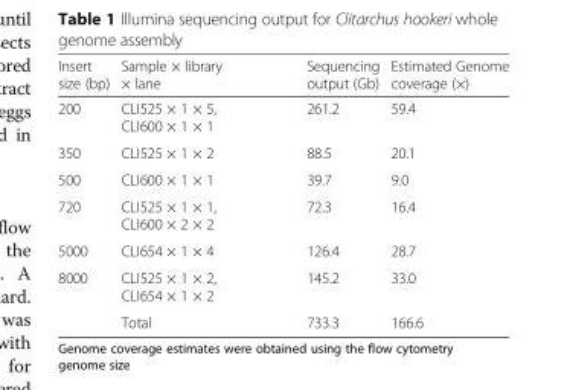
<table><thead><tr><td>Insert size (bp)</td><td>Sample × library × lane</td><td>Sequencing output (Gb)</td><td>Estimated Genome coverage (×)</td></tr></thead><tbody><tr><td>200</td><td>CLI525 × 1 × 5, CLI600 × 1 × 1</td><td>261.2</td><td>59.4</td></tr><tr><td>350</td><td>CLI525 × 1 × 2</td><td>88.5</td><td>20.1</td></tr><tr><td>500</td><td>CLI600 × 1 × 1</td><td>39.7</td><td>9.0</td></tr><tr><td>720</td><td>CLI525 × 1 × 1, CLI600 × 2 × 2</td><td>72.3</td><td>16.4</td></tr><tr><td>5000</td><td>CLI654 × 1 × 4</td><td>126.4</td><td>28.7</td></tr><tr><td rowspan="2">8000</td><td>CLI525 × 1 × 2, CLI654 × 1 × 2</td><td>145.2</td><td>33.0</td></tr><tr><td>Total</td><td>733.3</td><td>166.6</td></tr></tbody></table>